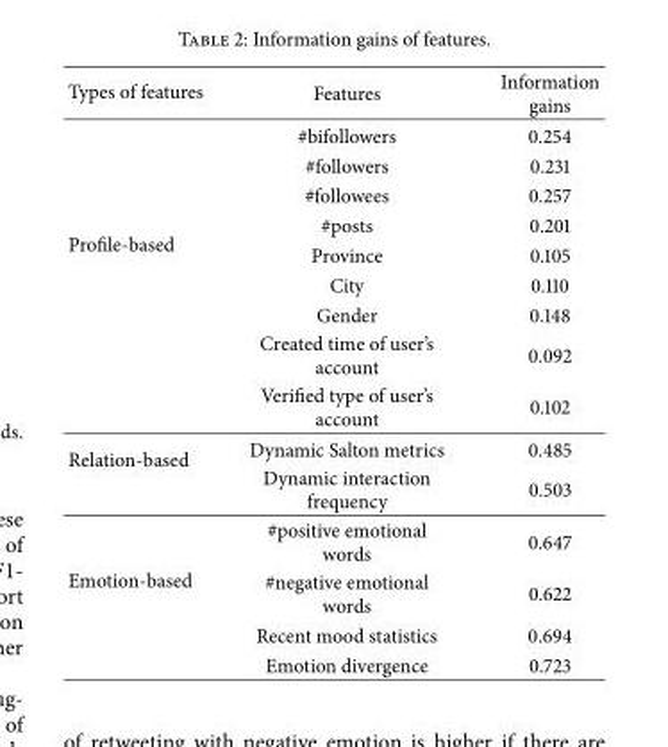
<table><thead><tr><td>Types of features</td><td>Features</td><td>Information gains</td></tr></thead><tbody><tr><td rowspan="9">Profile-based</td><td>#bifollowers</td><td>0.254</td></tr><tr><td>#followers</td><td>0.231</td></tr><tr><td>#followees</td><td>0.257</td></tr><tr><td>#posts</td><td>0.201</td></tr><tr><td>Province</td><td>0.105</td></tr><tr><td>City</td><td>0.110</td></tr><tr><td>Gender</td><td>0.148</td></tr><tr><td>Created time of user’s account</td><td>0.092</td></tr><tr><td>Verified type of user’s account</td><td>0.102</td></tr><tr><td rowspan="2">Relation-based</td><td>Dynamic Salton metrics</td><td>0.485</td></tr><tr><td>Dynamic interaction frequency</td><td>0.503</td></tr><tr><td rowspan="4">Emotion-based</td><td>#positive emotional words</td><td>0.647</td></tr><tr><td>#negative emotional words</td><td>0.622</td></tr><tr><td>Recent mood statistics</td><td>0.694</td></tr><tr><td>Emotion divergence</td><td>0.723</td></tr></tbody></table>